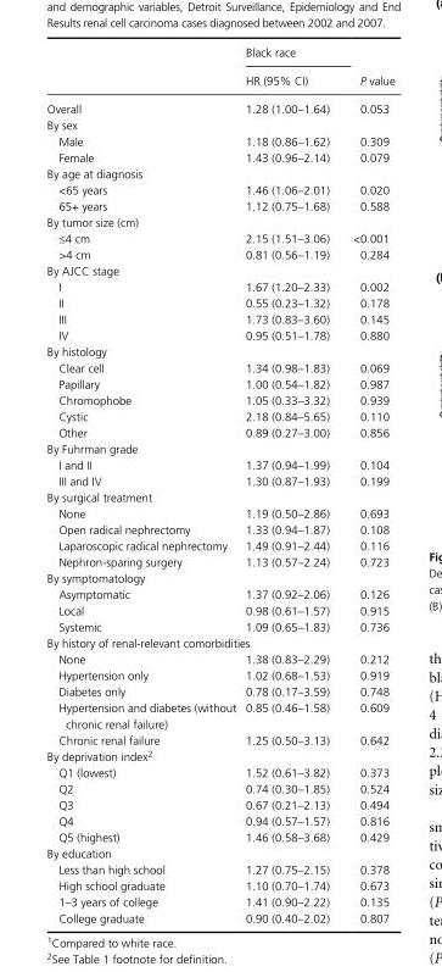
<table><thead><tr><td rowspan="2"></td><td rowspan="2">Black race HR (95% CI)</td><td rowspan="2">P value</td></tr><tr></tr></thead><tbody><tr><td>Overall</td><td>1.28 (1.00–1.64)</td><td>0.053</td></tr><tr><td colspan="3">By sex</td></tr><tr><td>Male</td><td>1.18 (0.86–1.62)</td><td>0.309</td></tr><tr><td>Female</td><td>1.43 (0.96–2.14)</td><td>0.079</td></tr><tr><td colspan="3">By age at diagnosis</td></tr><tr><td>&lt;65 years</td><td>1.46 (1.06–2.01)</td><td>0.020</td></tr><tr><td>65+ years</td><td>1.12 (0.75–1.68)</td><td>0.588</td></tr><tr><td colspan="3">By tumor size (cm)</td></tr><tr><td>≤4 cm</td><td>2.15 (1.51–3.06)</td><td>&lt;0.001</td></tr><tr><td>&gt;4 cm</td><td>0.81 (0.56–1.19)</td><td>0.284</td></tr><tr><td colspan="3">By AJCC stage</td></tr><tr><td>I</td><td>1.67 (1.20–2.33)</td><td>0.002</td></tr><tr><td>II</td><td>0.55 (0.23–1.32)</td><td>0.178</td></tr><tr><td>III</td><td>1.73 (0.83–3.60)</td><td>0.145</td></tr><tr><td>IV</td><td>0.95 (0.51–1.78)</td><td>0.880</td></tr><tr><td colspan="3">By histology</td></tr><tr><td>Clear cell</td><td>1.34 (0.98–1.83)</td><td>0.069</td></tr><tr><td>Papillary</td><td>1.00 (0.54–1.82)</td><td>0.987</td></tr><tr><td>Chromophobe</td><td>1.05 (0.33–3.32)</td><td>0.939</td></tr><tr><td>Cystic</td><td>2.18 (0.84–5.65)</td><td>0.110</td></tr><tr><td>Other</td><td>0.89 (0.27–3.00)</td><td>0.856</td></tr><tr><td colspan="3">By Fuhrman grade</td></tr><tr><td>I and II</td><td>1.37 (0.94–1.99)</td><td>0.104</td></tr><tr><td>III and IV</td><td>1.30 (0.87–1.93)</td><td>0.199</td></tr><tr><td colspan="3">By surgical treatment</td></tr><tr><td>None</td><td>1.19 (0.50–2.86)</td><td>0.693</td></tr><tr><td>Open radical nephrectomy</td><td>1.33 (0.94–1.87)</td><td>0.108</td></tr><tr><td>Laparoscopic radical nephrectomy</td><td>1.49 (0.91–2.44)</td><td>0.116</td></tr><tr><td>Nephron- sparing surgery</td><td>1.13 (0.57–2.24)</td><td>0.723</td></tr><tr><td colspan="3">By symptomatology</td></tr><tr><td>Asymptomatic</td><td>1.37 (0.92–2.06)</td><td>0.126</td></tr><tr><td>Local</td><td>0.98 (0.61–1.57)</td><td>0.915</td></tr><tr><td>Systemic</td><td>1.09 (0.65–1.83)</td><td>0.736</td></tr><tr><td colspan="3">By history of renal- relevant comorbidities</td></tr><tr><td>None</td><td>1.38 (0.83–2.29)</td><td>0.212</td></tr><tr><td>Hypertension only</td><td>1.02 (0.68–1.53)</td><td>0.919</td></tr><tr><td>Diabetes only</td><td>0.78 (0.17–3.59)</td><td>0.748</td></tr><tr><td>Hypertension and diabetes (without chronic renal failure)</td><td>0.85 (0.46–1.58)</td><td>0.609</td></tr><tr><td>Chronic renal failure</td><td>1.25 (0.50–3.13)</td><td>0.642</td></tr><tr><td colspan="3">By deprivation index2</td></tr><tr><td>Q1 (lowest)</td><td>1.52 (0.61–3.82)</td><td>0.373</td></tr><tr><td>Q2</td><td>0.74 (0.30–1.85)</td><td>0.524</td></tr><tr><td>Q3</td><td>0.67 (0.21–2.13)</td><td>0.494</td></tr><tr><td>Q4</td><td>0.94 (0.57–1.57)</td><td>0.816</td></tr><tr><td>Q5 (highest)</td><td>1.46 (0.58–3.68)</td><td>0.429</td></tr><tr><td colspan="3">By education</td></tr><tr><td>Less than high school</td><td>1.27 (0.75–2.15)</td><td>0.378</td></tr><tr><td>High school graduate</td><td>1.10 (0.70–1.74)</td><td>0.673</td></tr><tr><td>1–3 years of college</td><td>1.41 (0.90–2.22)</td><td>0.135</td></tr><tr><td>College graduate</td><td>0.90 (0.40–2.02)</td><td>0.807</td></tr></tbody></table>